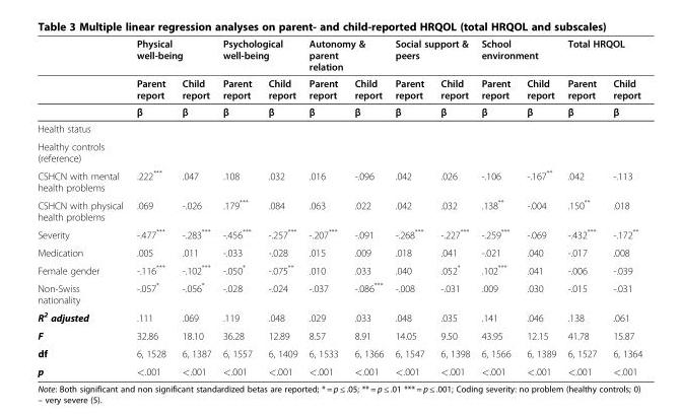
<table><thead><tr><td rowspan="3"></td><td colspan="2">Physical well-being</td><td colspan="2">Psychological well-being</td><td colspan="2">Autonomy &amp; parent relation</td><td colspan="2">Social support &amp; peers</td><td colspan="2">School environment</td><td colspan="2">Total HRQOL</td></tr><tr><td rowspan="2">Parent report β</td><td rowspan="2">Child report β</td><td rowspan="2">Parent report β</td><td rowspan="2">Child report β</td><td rowspan="2">Parent report β</td><td rowspan="2">Child report β</td><td rowspan="2">Parent report β</td><td rowspan="2">Child report β</td><td rowspan="2">Parent report β</td><td rowspan="2">Child report β</td><td rowspan="2">Parent report β</td><td rowspan="2">Child report β</td></tr><tr></tr></thead><tbody><tr><td colspan="13">Health status</td></tr><tr><td colspan="13">Healthy controls (reference)</td></tr><tr><td>CSHCN with mental health problems</td><td>.222***</td><td>.047</td><td>.108</td><td>.032</td><td>.016</td><td>-.096</td><td>.042</td><td>.026</td><td>-.106</td><td>-.167**</td><td>.042</td><td>-.113</td></tr><tr><td>CSHCN with physical health problems</td><td>.069</td><td>-.026</td><td>.179***</td><td>.084</td><td>.063</td><td>.022</td><td>.042</td><td>.032</td><td>.138**</td><td>-.004</td><td>.150**</td><td>.018</td></tr><tr><td>Severity</td><td>-.477***</td><td>-.283***</td><td>-.456***</td><td>-.257***</td><td>-.207***</td><td>-.091</td><td>-.268***</td><td>-.227***</td><td>-.259***</td><td>-.069</td><td>-.432***</td><td>-.172**</td></tr><tr><td>Medication</td><td>.005</td><td>.011</td><td>-.033</td><td>-.028</td><td>.015</td><td>.009</td><td>.018</td><td>.041</td><td>-.021</td><td>.040</td><td>-.017</td><td>.008</td></tr><tr><td>Female gender</td><td>-.116***</td><td>-.102***</td><td>-.050*</td><td>-.075**</td><td>.010</td><td>.033</td><td>.040</td><td>.052*</td><td>.102***</td><td>.041</td><td>-.006</td><td>-.039</td></tr><tr><td>Non-Swiss nationality</td><td>-.057*</td><td>-.056*</td><td>-.028</td><td>-.024</td><td>-.037</td><td>-.086***</td><td>-.008</td><td>-.031</td><td>.009</td><td>.030</td><td>-.015</td><td>-.031</td></tr><tr><td>R<sup>2</sup> adjusted</td><td>.111</td><td>.069</td><td>.119</td><td>.048</td><td>.029</td><td>.033</td><td>.048</td><td>.035</td><td>.141</td><td>.046</td><td>.138</td><td>.061</td></tr><tr><td>F</td><td>32.86</td><td>18.10</td><td>36.28</td><td>12.89</td><td>8.57</td><td>8.91</td><td>14.05</td><td>9.50</td><td>43.95</td><td>12.15</td><td>41.78</td><td>15.87</td></tr><tr><td>df</td><td>6, 1528</td><td>6, 1387</td><td>6, 1557</td><td>6, 1409</td><td>6, 1533</td><td>6, 1366</td><td>6, 1547</td><td>6, 1398</td><td>6, 1566</td><td>6, 1389</td><td>6, 1527</td><td>6, 1364</td></tr><tr><td>p</td><td>&lt;.001</td><td>&lt;.001</td><td>&lt;.001</td><td>&lt;.001</td><td>&lt;.001</td><td>&lt;.001</td><td>&lt;.001</td><td>&lt;.001</td><td>&lt;.001</td><td>&lt;.001</td><td>&lt;.001</td><td>&lt;.001</td></tr></tbody></table>